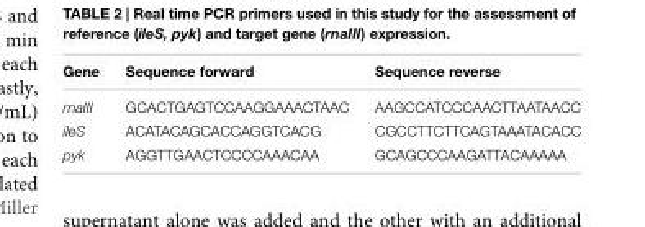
<table><thead><tr><td>Gene</td><td>Sequence forward</td><td>Sequence reverse</td></tr></thead><tbody><tr><td>rnaIII</td><td>GCACTGAGTCCAAGGAAACTAAC</td><td>AAGCCATCCCAACTTAATAACC</td></tr><tr><td>ileS</td><td>ACATACAGCACCAGGTCACG</td><td>CGCCTTCTTCAGTAAATACACC</td></tr><tr><td>pyk</td><td>AGGTTGAACTCCCCAAACAA</td><td>GCAGCCCAAGATTACAAAAA</td></tr></tbody></table>